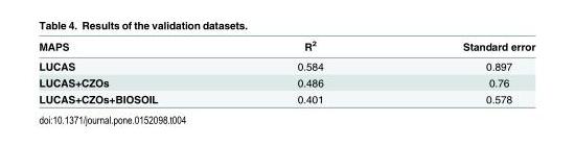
<table><thead><tr><td>MAPS</td><td>R<sup>2</sup></td><td>Standard error</td></tr></thead><tbody><tr><td>LUCAS</td><td>0.584</td><td>0.897</td></tr><tr><td>LUCAS+CZOs</td><td>0.486</td><td>0.76</td></tr><tr><td>LUCAS+CZOs+BIOSOIL</td><td>0.401</td><td>0.578</td></tr></tbody></table>